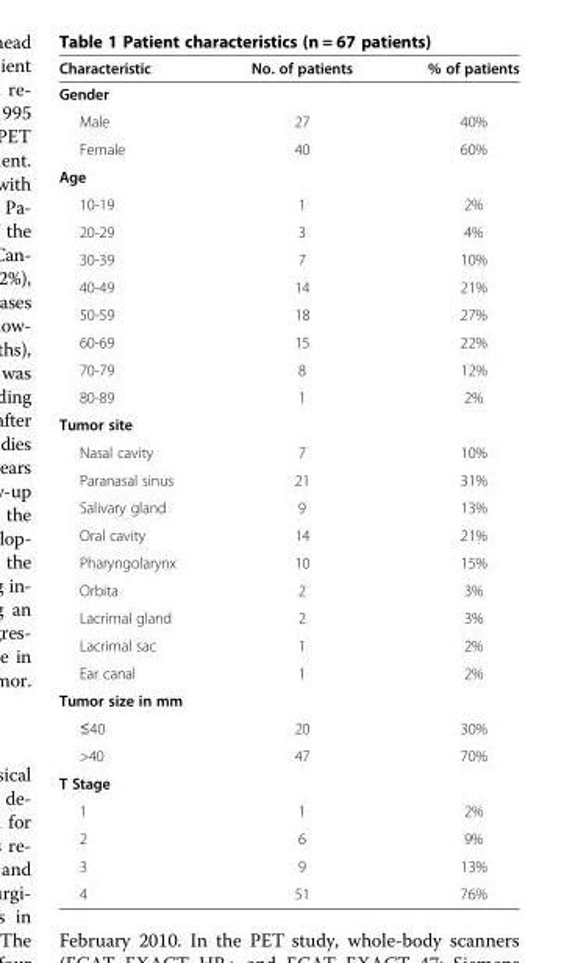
<table><thead><tr><td>Characteristic</td><td>No. of patients</td><td>% of patients</td></tr></thead><tbody><tr><td colspan="3">Gender</td></tr><tr><td>Male</td><td>27</td><td>40%</td></tr><tr><td>Female</td><td>40</td><td>60%</td></tr><tr><td colspan="3">Age</td></tr><tr><td>10-19</td><td>1</td><td>2%</td></tr><tr><td>20-29</td><td>3</td><td>4%</td></tr><tr><td>30-39</td><td>7</td><td>10%</td></tr><tr><td>40-49</td><td>14</td><td>21%</td></tr><tr><td>50-59</td><td>18</td><td>27%</td></tr><tr><td>60-69</td><td>15</td><td>22%</td></tr><tr><td>70-79</td><td>8</td><td>12%</td></tr><tr><td>80-89</td><td>1</td><td>2%</td></tr><tr><td colspan="3">Tumor site</td></tr><tr><td>Nasal cavity</td><td>7</td><td>10%</td></tr><tr><td>Paranasal sinus</td><td>21</td><td>31%</td></tr><tr><td>Salivary gland</td><td>9</td><td>13%</td></tr><tr><td>Oral cavity</td><td>14</td><td>21%</td></tr><tr><td>Pharyngolarynx</td><td>10</td><td>15%</td></tr><tr><td>Orbita</td><td>2</td><td>3%</td></tr><tr><td>Lacrimal gland</td><td>2</td><td>3%</td></tr><tr><td>Lacrimal sac</td><td>1</td><td>2%</td></tr><tr><td>Ear canal</td><td>1</td><td>2%</td></tr><tr><td colspan="3">Tumor size in mm</td></tr><tr><td>≤40</td><td>20</td><td>30%</td></tr><tr><td>&gt;40</td><td>47</td><td>70%</td></tr><tr><td colspan="3">T Stage</td></tr><tr><td>1</td><td>1</td><td>2%</td></tr><tr><td>2</td><td>6</td><td>9%</td></tr><tr><td>3</td><td>9</td><td>13%</td></tr><tr><td>4</td><td>51</td><td>76%</td></tr></tbody></table>